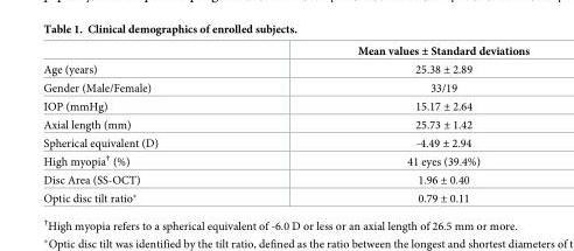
<table><thead><tr><td></td><td>Mean values ± Standard deviations</td></tr></thead><tbody><tr><td>Age (years)</td><td>25.38 ± 2.89</td></tr><tr><td>Gender (Male/Female)</td><td>33/19</td></tr><tr><td>IOP (mmHg)</td><td>15.17 ± 2.64</td></tr><tr><td>Axial length (mm)</td><td>25.73 ± 1.42</td></tr><tr><td>Spherical equivalent (D)</td><td>-4.49 ± 2.94</td></tr><tr><td>High myopia<sup>†</sup> (%)</td><td>41 eyes (39.4%)</td></tr><tr><td>Disc Area (SS-OCT)</td><td>1.96 ± 0.40</td></tr><tr><td>Optic disc tilt ratio*</td><td>0.79 ± 0.11</td></tr></tbody></table>